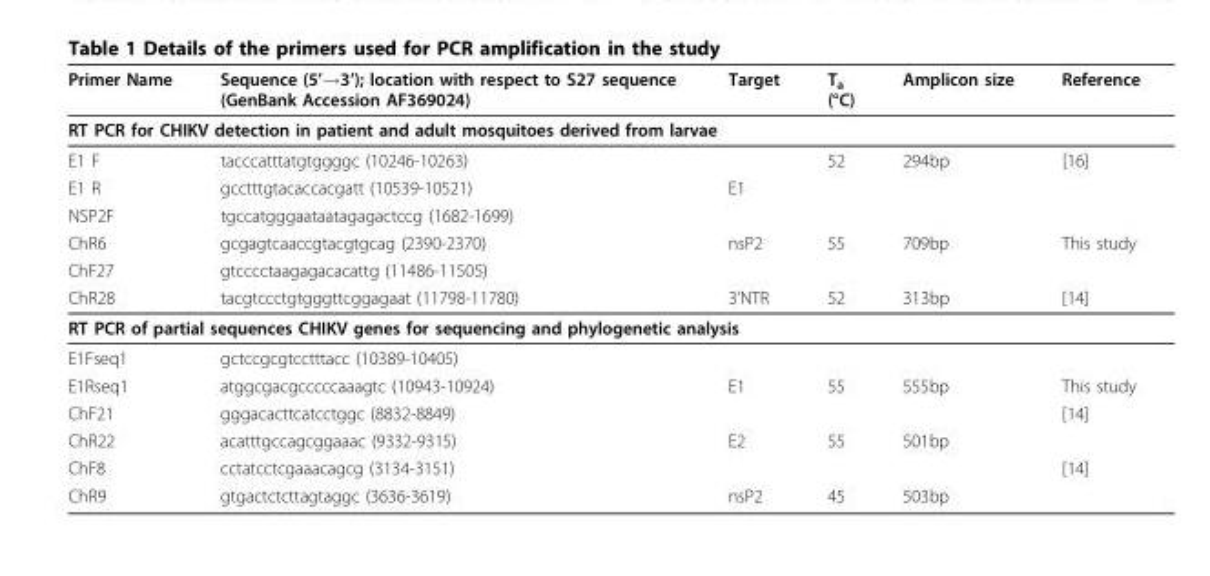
<table><thead><tr><td>Primer Name</td><td>Sequence (5’→3’); location with respect to S27 sequence (GenBank Accession AF369024)</td><td>Target</td><td>T<sub>a</sub> (°C)</td><td>Amplicon size</td><td>Reference</td></tr></thead><tbody><tr><td colspan="6">RT PCR for CHIKV detection in patient and adult mosquitoes derived from larvae</td></tr><tr><td>E1 F</td><td>tacccatttatgtggggc (10246-10263)</td><td></td><td>52</td><td>294bp</td><td>[16]</td></tr><tr><td>E1 R</td><td>gcctttgtacaccacgatt (10539-10521)</td><td>E1</td><td></td><td></td><td></td></tr><tr><td>NSP2F</td><td>tgccatgggaataatagagactccg (1682-1699)</td><td></td><td></td><td></td><td></td></tr><tr><td>ChR6</td><td>gcgagtcaaccgtacgtgcag (2390-2370)</td><td>nsP2</td><td>55</td><td>709bp</td><td>This study</td></tr><tr><td>ChF27</td><td>gtcccctaagagacacattg (11486-11505)</td><td></td><td></td><td></td><td></td></tr><tr><td>ChR28</td><td>tacgtccctgtgggttcggagaat (11798-11780)</td><td>3’NTR</td><td>52</td><td>313bp</td><td>[14]</td></tr><tr><td colspan="6">RT PCR of partial sequences CHIKV genes for sequencing and phylogenetic analysis</td></tr><tr><td>E1Fseq1</td><td>gctccgcgtcctttacc (10389-10405)</td><td></td><td></td><td></td><td></td></tr><tr><td>E1Rseq1</td><td>atggcgacgcccccaaagtc (10943-10924)</td><td>E1</td><td>55</td><td>555bp</td><td>This study</td></tr><tr><td>ChF21</td><td>gggacacttcatcctggc (8832-8849)</td><td></td><td></td><td></td><td>[14]</td></tr><tr><td>ChR22</td><td>acatttgccagcggaaac (9332-9315)</td><td>E2</td><td>55</td><td>501bp</td><td></td></tr><tr><td>ChF8</td><td>cctatcctcgaaacagcg (3134-3151)</td><td></td><td></td><td></td><td>[14]</td></tr><tr><td>ChR9</td><td>gtgactctcttagtaggc (3636-3619)</td><td>nsP2</td><td>45</td><td>503bp</td><td></td></tr></tbody></table>